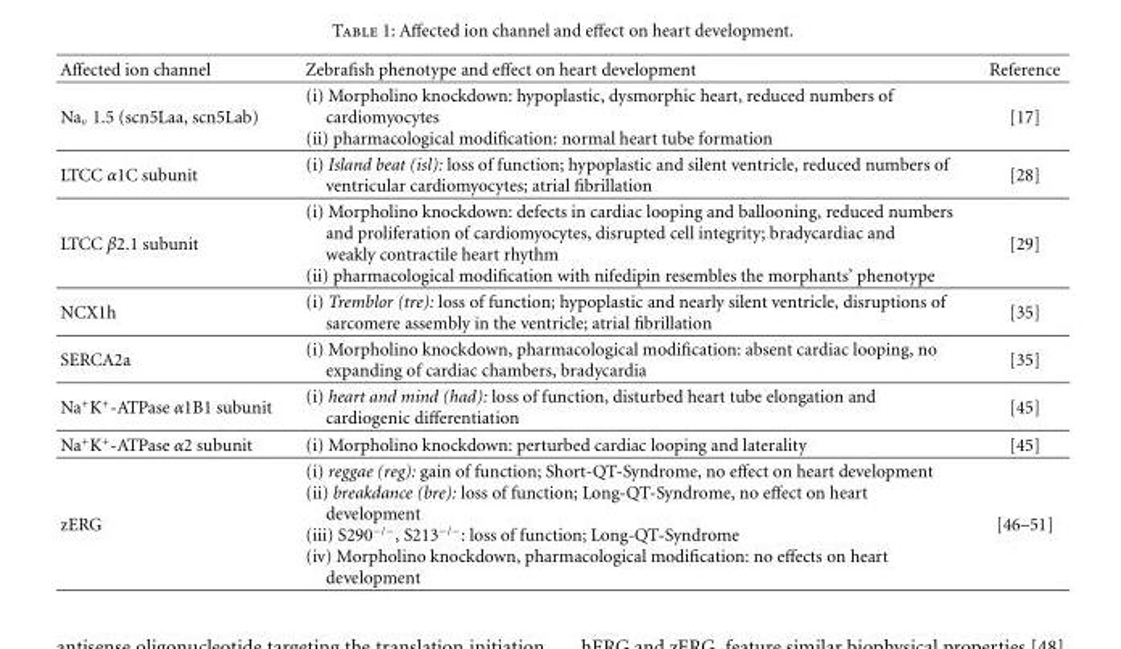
<table><thead><tr><td>Affected ion channel</td><td>Zebrafish phenotype and effect on heart development</td><td>Reference</td></tr></thead><tbody><tr><td>Na<sub>v</sub> 1.5 (scn5Laa, scn5Lab)</td><td>(i) Morpholino knockdown: hypoplastic, dysmorphic heart, reduced numbers of cardiomyocytes (ii) pharmacological modification: normal heart tube formation</td><td>[17]</td></tr><tr><td>LTCC α1C subunit</td><td>(i) Island beat (isl): loss of function; hypoplastic and silent ventricle, reduced numbers of ventricular cardiomyocytes; atrial fibrillation</td><td>[28]</td></tr><tr><td>LTCC β2.1 subunit</td><td>(i) Morpholino knockdown: defects in cardiac looping and ballooning, reduced numbers and proliferation of cardiomyocytes, disrupted cell integrity; bradycardiac and weakly contractile heart rhythm (ii) pharmacological modification with nifedipin resembles the morphants’ phenotype</td><td>[29]</td></tr><tr><td>NCX1h</td><td>(i) Tremblor (tre): loss of function; hypoplastic and nearly silent ventricle, disruptions of sarcomere assembly in the ventricle; atrial fibrillation</td><td>[35]</td></tr><tr><td>SERCA2a</td><td>(i) Morpholino knockdown, pharmacological modification: absent cardiac looping, no expanding of cardiac chambers, bradycardia</td><td>[35]</td></tr><tr><td>Na<sup>+</sup>K<sup>+</sup>-ATPase α1B1 subunit</td><td>(i) heart and mind (had): loss of function, disturbed heart tube elongation and cardiogenic differentiation</td><td>[45]</td></tr><tr><td>Na<sup>+</sup>K<sup>+</sup>-ATPase α2 subunit</td><td>(i) Morpholino knockdown: perturbed cardiac looping and laterality</td><td>[45]</td></tr><tr><td>zERG</td><td>(i) reggae (reg): gain of function; Short-QT-Syndrome, no effect on heart development (ii) breakdance (bre): loss of function; Long-QT-Syndrome, no effect on heart development (iii) S290<sup>−/−</sup>, S213<sup>−/−</sup>: loss of function; Long-QT-Syndrome (iv) Morpholino knockdown, pharmacological modification: no effects on heart development</td><td>[46–51]</td></tr></tbody></table>